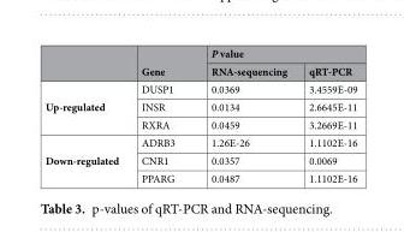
<table><thead><tr><td rowspan="2"></td><td rowspan="2">Gene</td><td colspan="2">P value</td></tr><tr><td>RNA-sequencing</td><td>qRT-PCR</td></tr></thead><tbody><tr><td rowspan="3">Up-regulated</td><td>DUSP1</td><td>0.0369</td><td>3.4559E-09</td></tr><tr><td>INSR</td><td>0.0134</td><td>2.6645E-11</td></tr><tr><td>RXRA</td><td>0.0459</td><td>3.2669E-11</td></tr><tr><td rowspan="3">Down-regulated</td><td>ADRB3</td><td>1.26E-26</td><td>1.1102E-16</td></tr><tr><td>CNR1</td><td>0.0357</td><td>0.0069</td></tr><tr><td>PPARG</td><td>0.0487</td><td>1.1102E-16</td></tr></tbody></table>